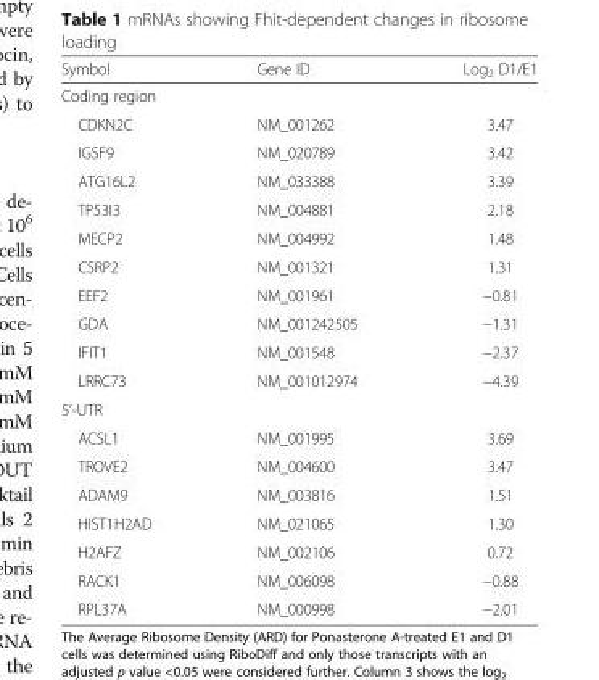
<table><thead><tr><td>Symbol</td><td>Gene ID</td><td>Log<sub>2</sub> D1/E1</td></tr></thead><tbody><tr><td colspan="3">Coding region</td></tr><tr><td>CDKN2C</td><td>NM_001262</td><td>3.47</td></tr><tr><td>IGSF9</td><td>NM_020789</td><td>3.42</td></tr><tr><td>ATG16L2</td><td>NM_033388</td><td>3.39</td></tr><tr><td>TP53I3</td><td>NM_004881</td><td>2.18</td></tr><tr><td>MECP2</td><td>NM_004992</td><td>1.48</td></tr><tr><td>CSRP2</td><td>NM_001321</td><td>1.31</td></tr><tr><td>EEF2</td><td>NM_001961</td><td>−0.81</td></tr><tr><td>GDA</td><td>NM_001242505</td><td>−1.31</td></tr><tr><td>IFIT1</td><td>NM_001548</td><td>−2.37</td></tr><tr><td>LRRC73</td><td>NM_001012974</td><td>−4.39</td></tr><tr><td colspan="3">5’-UTR</td></tr><tr><td>ACSL1</td><td>NM_001995</td><td>3.69</td></tr><tr><td>TROVE2</td><td>NM_004600</td><td>3.47</td></tr><tr><td>ADAM9</td><td>NM_003816</td><td>1.51</td></tr><tr><td>HIST1H2AD</td><td>NM_021065</td><td>1.30</td></tr><tr><td>H2AFZ</td><td>NM_002106</td><td>0.72</td></tr><tr><td>RACK1</td><td>NM_006098</td><td>−0.88</td></tr><tr><td>RPL37A</td><td>NM_000998</td><td>−2.01</td></tr></tbody></table>